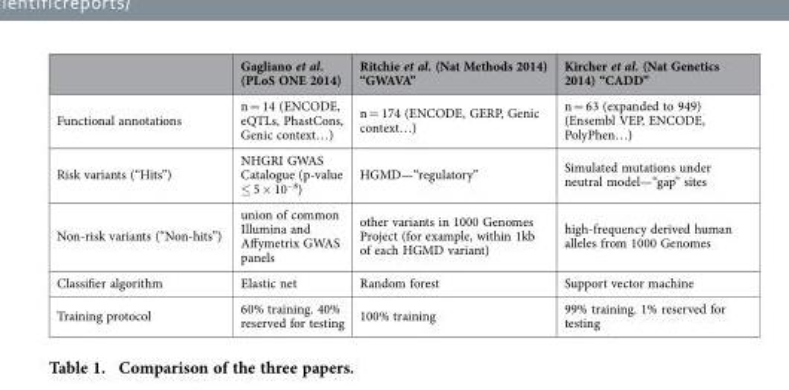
<table><thead><tr><td></td><td>Gagliano et al. (PLoS ONE 2014)</td><td>Ritchie et al. (Nat Methods 2014) “GWAVA”</td><td>Kircher et al. (Nat Genetics 2014) “CADD”</td></tr></thead><tbody><tr><td>Functional annotations</td><td>n = 14 (ENCODE, eQTLs, PhastCons, Genic context…)</td><td>n = 174 (ENCODE, GERP, Genic context…)</td><td>n = 63 (expanded to 949) (Ensembl VEP, ENCODE, PolyPhen…)</td></tr><tr><td>Risk variants (“Hits”)</td><td>NHGRI GWAS Catalogue (p-value ≤ 5 × 10<sup>−8</sup>)</td><td>HGMD—“regulatory”</td><td>Simulated mutations under neutral model—“gap” sites</td></tr><tr><td>Non-risk variants (“Non-hits”)</td><td>union of common Illumina and Affymetrix GWAS panels</td><td>other variants in 1000 Genomes Project (for example, within 1kb of each HGMD variant)</td><td>high-frequency derived human alleles from 1000 Genomes</td></tr><tr><td>Classifier algorithm</td><td>Elastic net</td><td>Random forest</td><td>Support vector machine</td></tr><tr><td>Training protocol</td><td>60% training. 40% reserved for testing</td><td>100% training</td><td>99% training. 1% reserved for testing</td></tr></tbody></table>